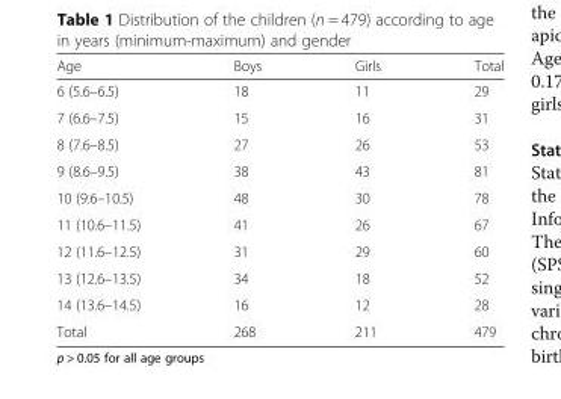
<table><thead><tr><td>Age</td><td>Boys</td><td>Girls</td><td>Total</td></tr></thead><tbody><tr><td>6 (5.6–6.5)</td><td>18</td><td>11</td><td>29</td></tr><tr><td>7 (6.6–7.5)</td><td>15</td><td>16</td><td>31</td></tr><tr><td>8 (7.6–8.5)</td><td>27</td><td>26</td><td>53</td></tr><tr><td>9 (8.6–9.5)</td><td>38</td><td>43</td><td>81</td></tr><tr><td>10 (9.6–10.5)</td><td>48</td><td>30</td><td>78</td></tr><tr><td>11 (10.6–11.5)</td><td>41</td><td>26</td><td>67</td></tr><tr><td>12 (11.6–12.5)</td><td>31</td><td>29</td><td>60</td></tr><tr><td>13 (12.6–13.5)</td><td>34</td><td>18</td><td>52</td></tr><tr><td>14 (13.6–14.5)</td><td>16</td><td>12</td><td>28</td></tr><tr><td>Total</td><td>268</td><td>211</td><td>479</td></tr></tbody></table>